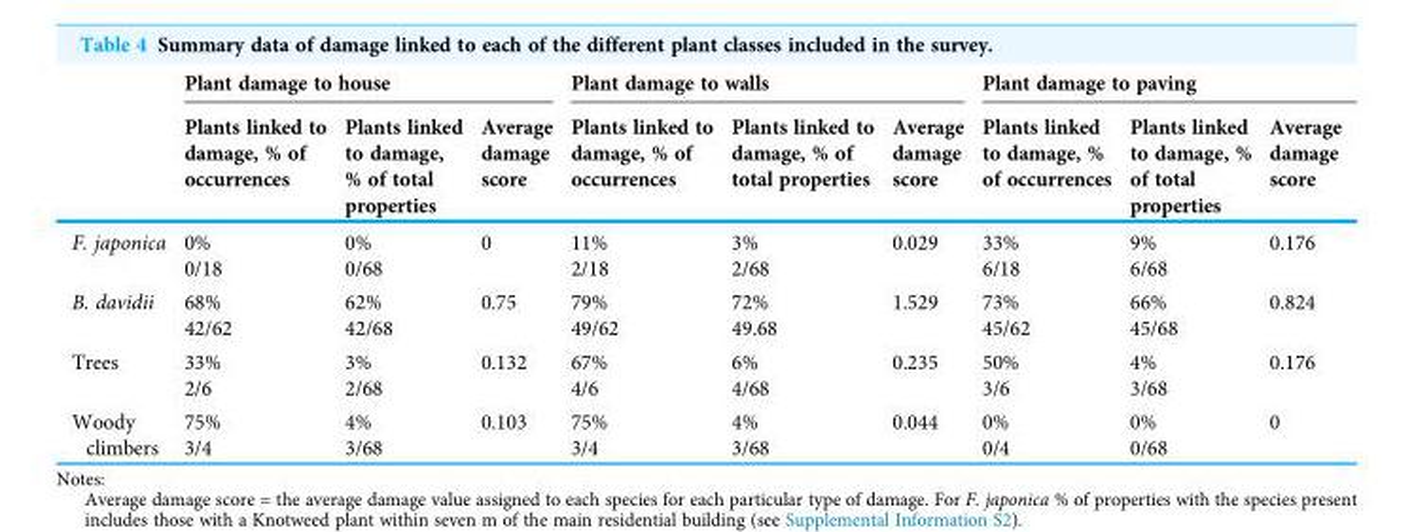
<table><thead><tr><td rowspan="2"></td><td colspan="3">Plant damage to house</td><td colspan="3">Plant damage to walls</td><td colspan="3">Plant damage to paving</td></tr><tr><td>Plants linked to damage, % of occurrences</td><td>Plants linked to damage, % of total properties</td><td>Average damage score</td><td>Plants linked to damage, % of occurrences</td><td>Plants linked to damage, % of total properties</td><td>Average damage score</td><td>Plants linked to damage, % of occurrences</td><td>Plants linked to damage, % of total properties</td><td>Average damage score</td></tr></thead><tbody><tr><td>F. japonica</td><td>0% 0/18</td><td>0% 0/68</td><td>0</td><td>11% 2/18</td><td>3% 2/68</td><td>0.029</td><td>33% 6/18</td><td>9% 6/68</td><td>0.176</td></tr><tr><td>B. davidii</td><td>68% 42/62</td><td>62% 42/68</td><td>0.75</td><td>79% 49/62</td><td>72% 49.68</td><td>1.529</td><td>73% 45/62</td><td>66% 45/68</td><td>0.824</td></tr><tr><td>Trees</td><td>33% 2/6</td><td>3% 2/68</td><td>0.132</td><td>67% 4/6</td><td>6% 4/68</td><td>0.235</td><td>50% 3/6</td><td>4% 3/68</td><td>0.176</td></tr><tr><td>Woody climbers</td><td>75% 3/4</td><td>4% 3/68</td><td>0.103</td><td>75% 3/4</td><td>4% 3/68</td><td>0.044</td><td>0% 0/4</td><td>0% 0/68</td><td>0</td></tr></tbody></table>